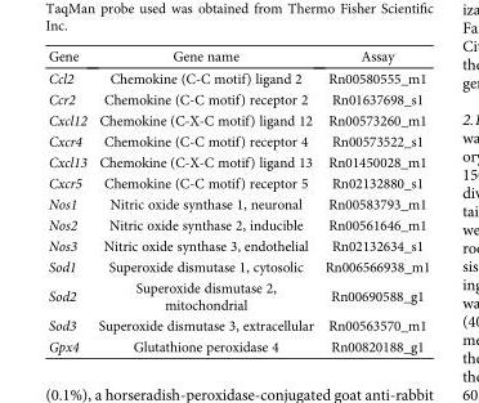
<table><thead><tr><td>Gene</td><td>Gene name</td><td>Assay</td></tr></thead><tbody><tr><td>Ccl2</td><td>Chemokine (C-C motif) ligand 2</td><td>Rn00580555_m1</td></tr><tr><td>Ccr2</td><td>Chemokine (C-C motif) receptor 2</td><td>Rn01637698_s1</td></tr><tr><td>Cxcl12</td><td>Chemokine (C-X-C motif) ligand 12</td><td>Rn00573260_m1</td></tr><tr><td>Cxcr4</td><td>Chemokine (C-C motif) receptor 4</td><td>Rn00573522_s1</td></tr><tr><td>Cxcl13</td><td>Chemokine (C-X-C motif) ligand 13</td><td>Rn01450028_m1</td></tr><tr><td>Cxcr5</td><td>Chemokine (C-C motif) receptor 5</td><td>Rn02132880_s1</td></tr><tr><td>Nos1</td><td>Nitric oxide synthase 1, neuronal</td><td>Rn00583793_m1</td></tr><tr><td>Nos2</td><td>Nitric oxide synthase 2, inducible</td><td>Rn00561646_m1</td></tr><tr><td>Nos3</td><td>Nitric oxide synthase 3, endothelial</td><td>Rn02132634_s1</td></tr><tr><td>Sod1</td><td>Superoxide dismutase 1, cytosolic</td><td>Rn006566938_m1</td></tr><tr><td>Sod2</td><td>Superoxide dismutase 2, mitochondrial</td><td>Rn00690588_g1</td></tr><tr><td>Sod3</td><td>Superoxide dismutase 3, extracellular</td><td>Rn00563570_m1</td></tr><tr><td>Gpx4</td><td>Glutathione peroxidase 4</td><td>Rn00820188_g1</td></tr></tbody></table>